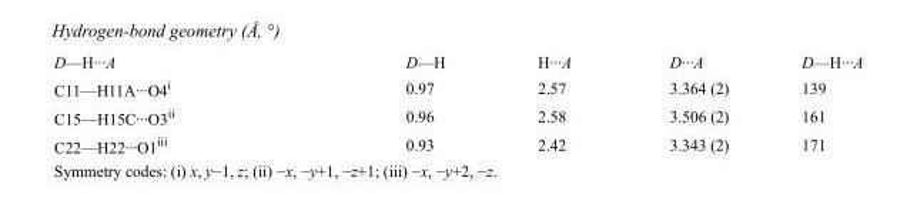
<table><tbody><tr><td>D—H···A</td><td>D—H</td><td>H···A</td><td>D···A</td><td>D—H···A</td></tr><tr><td>C11—H11A···O4<sup>i</sup></td><td>0.97</td><td>2.57</td><td>3.364 (2)</td><td>139</td></tr><tr><td>C15—H15C···O3<sup>ii</sup></td><td>0.96</td><td>2.58</td><td>3.506 (2)</td><td>161</td></tr><tr><td>C22—H22···O1<sup>iii</sup></td><td>0.93</td><td>2.42</td><td>3.343 (2)</td><td>171</td></tr></tbody></table>